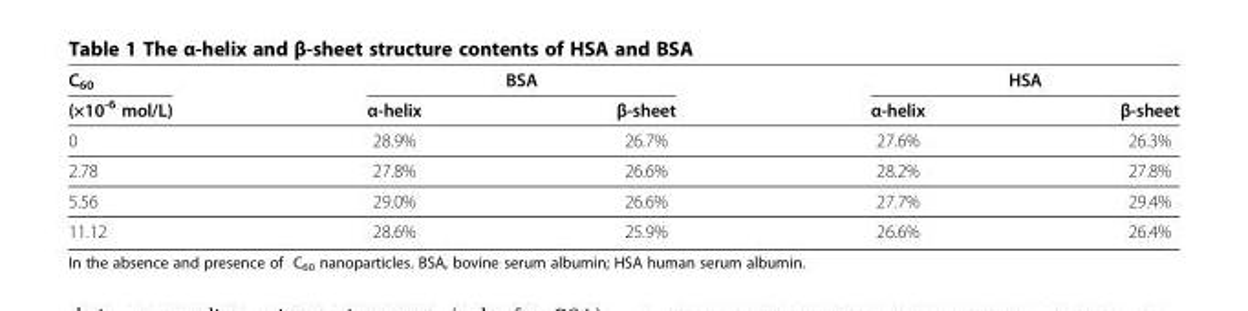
<table><thead><tr><td rowspan="2">C<sub>60</sub> (×10<sup>-6</sup> mol/L)</td><td colspan="2">BSA</td><td colspan="2">HSA</td></tr><tr><td>α-helix</td><td>β-sheet</td><td>α-helix</td><td>β-sheet</td></tr></thead><tbody><tr><td>0</td><td>28.9%</td><td>26.7%</td><td>27.6%</td><td>26.3%</td></tr><tr><td>2.78</td><td>27.8%</td><td>26.6%</td><td>28.2%</td><td>27.8%</td></tr><tr><td>5.56</td><td>29.0%</td><td>26.6%</td><td>27.7%</td><td>29.4%</td></tr><tr><td>11.12</td><td>28.6%</td><td>25.9%</td><td>26.6%</td><td>26.4%</td></tr></tbody></table>